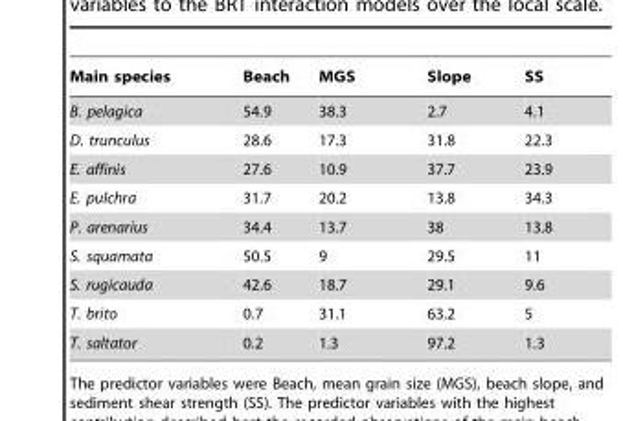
<table><thead><tr><td>Main species</td><td>Beach</td><td>MGS</td><td>Slope</td><td>SS</td></tr></thead><tbody><tr><td>B. pelagica</td><td>54.9</td><td>38.3</td><td>2.7</td><td>4.1</td></tr><tr><td>D. trunculus</td><td>28.6</td><td>17.3</td><td>31.8</td><td>22.3</td></tr><tr><td>E. affinis</td><td>27.6</td><td>10.9</td><td>37.7</td><td>23.9</td></tr><tr><td>E. pulchra</td><td>31.7</td><td>20.2</td><td>13.8</td><td>34.3</td></tr><tr><td>P. arenarius</td><td>34.4</td><td>13.7</td><td>38</td><td>13.8</td></tr><tr><td>S. squamata</td><td>50.5</td><td>9</td><td>29.5</td><td>11</td></tr><tr><td>S. rugicauda</td><td>42.6</td><td>18.7</td><td>29.1</td><td>9.6</td></tr><tr><td>T. brito</td><td>0.7</td><td>31.1</td><td>63.2</td><td>5</td></tr><tr><td>T. saltator</td><td>0.2</td><td>1.3</td><td>97.2</td><td>1.3</td></tr></tbody></table>